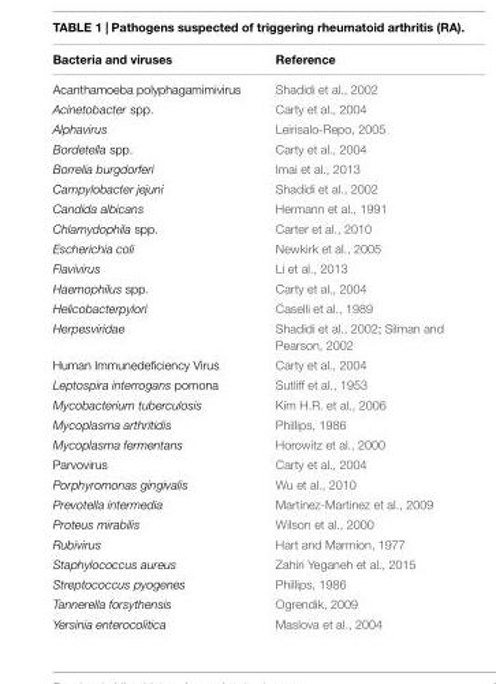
<table><thead><tr><td>Bacteria and viruses</td><td>Reference</td></tr></thead><tbody><tr><td>Acanthamoeba polyphagamimivirus</td><td>Shadidi et al., 2002</td></tr><tr><td>Acinetobacter spp.</td><td>Carty et al., 2004</td></tr><tr><td>Alphavirus</td><td>Leirisalo-Repo, 2005</td></tr><tr><td>Bordetella spp.</td><td>Carty et al., 2004</td></tr><tr><td>Borrelia burgdorferi</td><td>Imai et al., 2013</td></tr><tr><td>Campylobacter jejuni</td><td>Shadidi et al., 2002</td></tr><tr><td>Candida albicans</td><td>Hermann et al., 1991</td></tr><tr><td>Chlamydophila spp.</td><td>Carter et al., 2010</td></tr><tr><td>Escherichia coli</td><td>Newkirk et al., 2005</td></tr><tr><td>Flavivirus</td><td>Li et al., 2013</td></tr><tr><td>Haemophilus spp.</td><td>Carty et al., 2004</td></tr><tr><td>Helicobacterpylori</td><td>Caselli et al., 1989</td></tr><tr><td>Herpesviridae</td><td>Shadidi et al., 2002; Silman and Pearson, 2002</td></tr><tr><td>Human Immunedeficiency Virus</td><td>Carty et al., 2004</td></tr><tr><td>Leptospira interrogans pomona</td><td>Sutliff et al., 1953</td></tr><tr><td>Mycobacterium tuberculosis</td><td>Kim H.R. et al., 2006</td></tr><tr><td>Mycoplasma arthritidis</td><td>Phillips, 1986</td></tr><tr><td>Mycoplasma fermentans</td><td>Horowitz et al., 2000</td></tr><tr><td>Parvovirus</td><td>Carty et al., 2004</td></tr><tr><td>Porphyromonas gingivalis</td><td>Wu et al., 2010</td></tr><tr><td>Prevotella intermedia</td><td>Martinez-Martinez et al., 2009</td></tr><tr><td>Proteus mirabilis</td><td>Wilson et al., 2000</td></tr><tr><td>Rubivirus</td><td>Hart and Marmion, 1977</td></tr><tr><td>Staphylococcus aureus</td><td>Zahiri Yeganeh et al., 2015</td></tr><tr><td>Streptococcus pyogenes</td><td>Phillips, 1986</td></tr><tr><td>Tannerella forsythensis</td><td>Ogrendik, 2009</td></tr><tr><td>Yersinia enterocolitica</td><td>Maslova et al., 2004</td></tr></tbody></table>